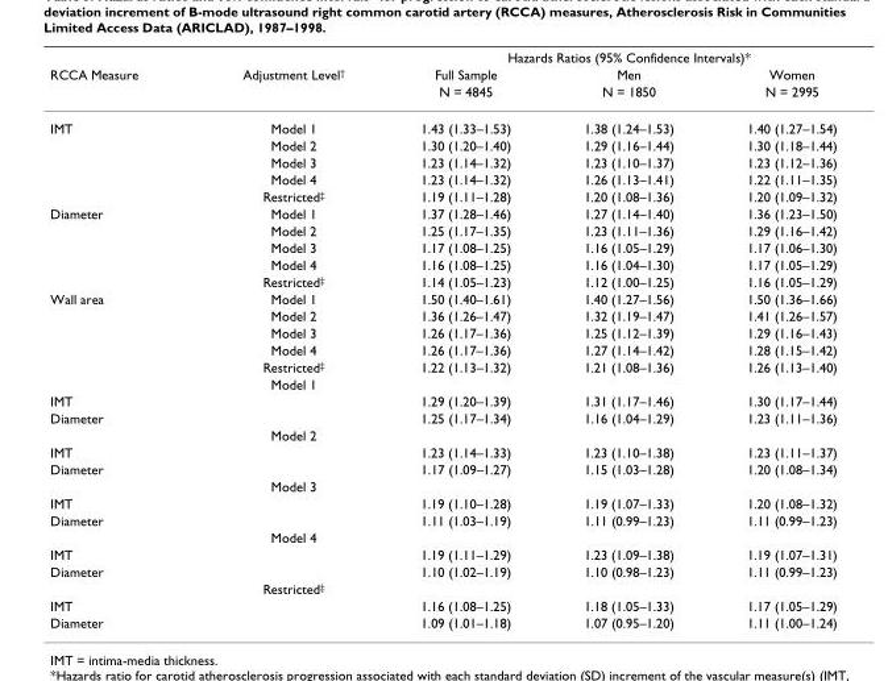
<table><thead><tr><td rowspan="3">RCCA Measure</td><td rowspan="3">Adjustment Level<sup>†</sup></td><td colspan="3">Hazards Ratios (95% Confidence Intervals)*</td></tr><tr><td rowspan="2">Full Sample N = 4845</td><td rowspan="2">Men N = 1850</td><td rowspan="2">Women N = 2995</td></tr><tr></tr></thead><tbody><tr><td rowspan="5">IMT</td><td>Model 1</td><td>1.43 (1.33–1.53)</td><td>1.38 (1.24–1.53)</td><td>1.40 (1.27–1.54)</td></tr><tr><td>Model 2</td><td>1.30 (1.20–1.40)</td><td>1.29 (1.16–1.44)</td><td>1.30 (1.18–1.44)</td></tr><tr><td>Model 3</td><td>1.23 (1.14–1.32)</td><td>1.23 (1.10–1.37)</td><td>1.23 (1.12–1.36)</td></tr><tr><td>Model 4</td><td>1.23 (1.14–1.32)</td><td>1.26 (1.13–1.41)</td><td>1.22 (1.11–1.35)</td></tr><tr><td>Restricted<sup>‡</sup></td><td>1.19 (1.11–1.28)</td><td>1.20 (1.08–1.36)</td><td>1.20 (1.09–1.32)</td></tr><tr><td rowspan="5">Diameter</td><td>Model 1</td><td>1.37 (1.28–1.46)</td><td>1.27 (1.14–1.40)</td><td>1.36 (1.23–1.50)</td></tr><tr><td>Model 2</td><td>1.25 (1.17–1.35)</td><td>1.23 (1.11–1.36)</td><td>1.29 (1.16–1.42)</td></tr><tr><td>Model 3</td><td>1.17 (1.08–1.25)</td><td>1.16 (1.05–1.29)</td><td>1.17 (1.06–1.30)</td></tr><tr><td>Model 4</td><td>1.16 (1.08–1.25)</td><td>1.16 (1.04–1.30)</td><td>1.17 (1.05–1.29)</td></tr><tr><td>Restricted<sup>‡</sup></td><td>1.14 (1.05–1.23)</td><td>1.12 (1.00–1.25)</td><td>1.16 (1.05–1.29)</td></tr><tr><td rowspan="6">Wall area</td><td>Model 1</td><td>1.50 (1.40–1.61)</td><td>1.40 (1.27–1.56)</td><td>1.50 (1.36–1.66)</td></tr><tr><td>Model 2</td><td>1.36 (1.26–1.47)</td><td>1.32 (1.19–1.47)</td><td>1.41 (1.26–1.57)</td></tr><tr><td>Model 3</td><td>1.26 (1.17–1.36)</td><td>1.25 (1.12–1.39)</td><td>1.29 (1.16–1.43)</td></tr><tr><td>Model 4</td><td>1.26 (1.17–1.36)</td><td>1.27 (1.14–1.42)</td><td>1.28 (1.15–1.42)</td></tr><tr><td>Restricted<sup>‡</sup></td><td>1.22 (1.13–1.32)</td><td>1.21 (1.08–1.36)</td><td>1.26 (1.13–1.40)</td></tr><tr><td>Model 1</td><td></td><td></td><td></td></tr><tr><td>IMT</td><td></td><td>1.29 (1.20–1.39)</td><td>1.31 (1.17–1.46)</td><td>1.30 (1.17–1.44)</td></tr><tr><td rowspan="2">Diameter</td><td></td><td>1.25 (1.17–1.34)</td><td>1.16 (1.04–1.29)</td><td>1.23 (1.11–1.36)</td></tr><tr><td>Model 2</td><td></td><td></td><td></td></tr><tr><td>IMT</td><td></td><td>1.23 (1.14–1.33)</td><td>1.23 (1.10–1.38)</td><td>1.23 (1.11–1.37)</td></tr><tr><td rowspan="2">Diameter</td><td></td><td>1.17 (1.09–1.27)</td><td>1.15 (1.03–1.28)</td><td>1.20 (1.08–1.34)</td></tr><tr><td>Model 3</td><td></td><td></td><td></td></tr><tr><td>IMT</td><td></td><td>1.19 (1.10–1.28)</td><td>1.19 (1.07–1.33)</td><td>1.20 (1.08–1.32)</td></tr><tr><td rowspan="2">Diameter</td><td></td><td>1.11 (1.03–1.19)</td><td>1.11 (0.99–1.23)</td><td>1.11 (0.99–1.23)</td></tr><tr><td>Model 4</td><td></td><td></td><td></td></tr><tr><td>IMT</td><td></td><td>1.19 (1.11–1.29)</td><td>1.23 (1.09–1.38)</td><td>1.19 (1.07–1.31)</td></tr><tr><td rowspan="2">Diameter</td><td></td><td>1.10 (1.02–1.19)</td><td>1.10 (0.98–1.23)</td><td>1.11 (0.99–1.23)</td></tr><tr><td>Restricted<sup>‡</sup></td><td></td><td></td><td></td></tr><tr><td>IMT</td><td></td><td>1.16 (1.08–1.25)</td><td>1.18 (1.05–1.33)</td><td>1.17 (1.05–1.29)</td></tr><tr><td>Diameter</td><td></td><td>1.09 (1.01–1.18)</td><td>1.07 (0.95–1.20)</td><td>1.11 (1.00–1.24)</td></tr></tbody></table>